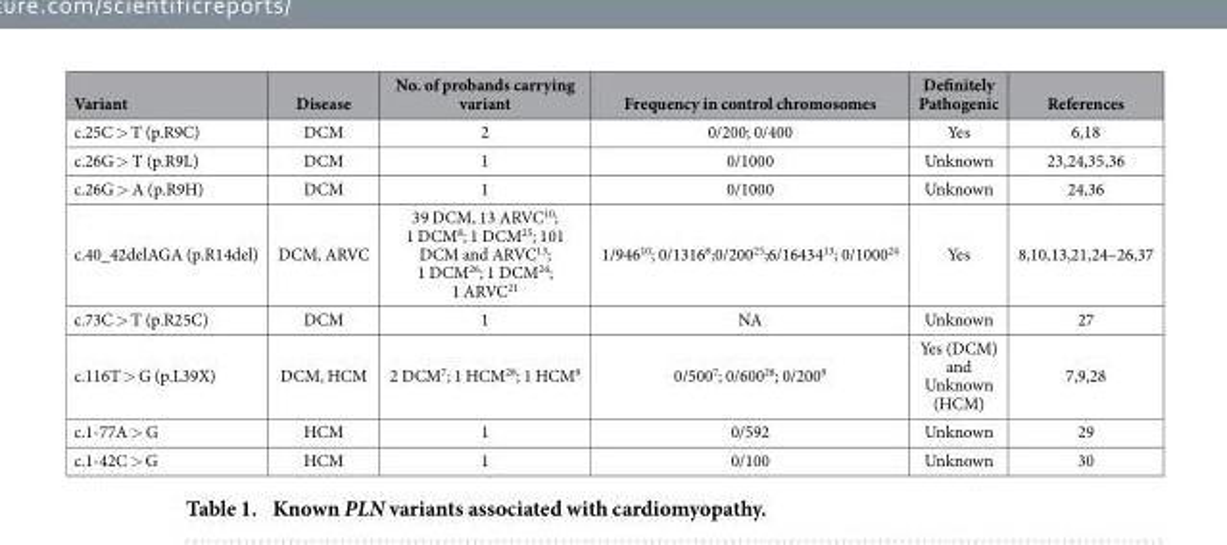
<table><thead><tr><td>Variant</td><td>Disease</td><td>No. of probands carrying variant</td><td>Frequency in control chromosomes</td><td>Definitely Pathogenic</td><td>References</td></tr></thead><tbody><tr><td>c.25C &gt; T (p.R9C)</td><td>DCM</td><td>2</td><td>0/200; 0/400</td><td>Yes</td><td>6,18</td></tr><tr><td>c.26G &gt; T (p.R9L)</td><td>DCM</td><td>1</td><td>0/1000</td><td>Unknown</td><td>23,24,35,36</td></tr><tr><td>c.26G &gt; A (p.R9H)</td><td>DCM</td><td>1</td><td>0/1000</td><td>Unknown</td><td>24,36</td></tr><tr><td>c.40_42delAGA (p.R14del)</td><td>DCM, ARVC</td><td>39 DCM, 13 ARVC<sup>10</sup>; 1 DCM<sup>8</sup>; 1 DCM<sup>25</sup>; 101 DCM and ARVC<sup>13</sup>; 1 DCM<sup>26</sup>; 1 DCM<sup>24</sup>; 1 ARVC<sup>21</sup></td><td>1/946<sup>10</sup>; 0/1316<sup>8</sup>;0/200<sup>25</sup>;6/16434<sup>13</sup>; 0/1000<sup>24</sup></td><td>Yes</td><td>8,10,13,21,24–26,37</td></tr><tr><td>c.73C &gt; T (p.R25C)</td><td>DCM</td><td>1</td><td>NA</td><td>Unknown</td><td>27</td></tr><tr><td>c.116T &gt; G (p.L39X)</td><td>DCM, HCM</td><td>2 DCM<sup>7</sup>; 1 HCM<sup>28</sup>; 1 HCM<sup>9</sup></td><td>0/500<sup>7</sup>; 0/600<sup>28</sup>; 0/200<sup>9</sup></td><td>Yes (DCM) and Unknown (HCM)</td><td>7,9,28</td></tr><tr><td>c.1-77A &gt; G</td><td>HCM</td><td>1</td><td>0/592</td><td>Unknown</td><td>29</td></tr><tr><td>c.1-42C &gt; G</td><td>HCM</td><td>1</td><td>0/100</td><td>Unknown</td><td>30</td></tr></tbody></table>